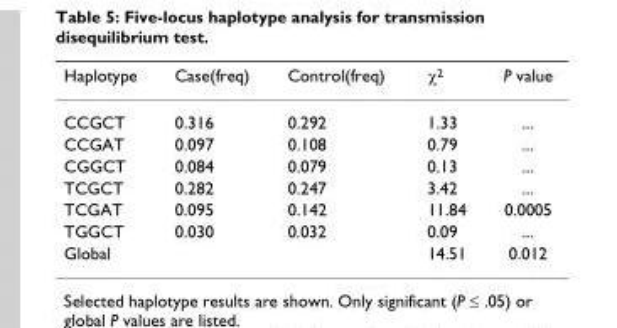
<table><thead><tr><td>Haplotype</td><td>Case(freq)</td><td>Control(freq)</td><td>χ<sup>2</sup></td><td>P value</td></tr></thead><tbody><tr><td>CCGCT</td><td>0.316</td><td>0.292</td><td>1.33</td><td>...</td></tr><tr><td>CCGAT</td><td>0.097</td><td>0.108</td><td>0.79</td><td>...</td></tr><tr><td>CGGCT</td><td>0.084</td><td>0.079</td><td>0.13</td><td>...</td></tr><tr><td>TCGCT</td><td>0.282</td><td>0.247</td><td>3.42</td><td>...</td></tr><tr><td>TCGAT</td><td>0.095</td><td>0.142</td><td>11.84</td><td>0.0005</td></tr><tr><td>TGGCT</td><td>0.030</td><td>0.032</td><td>0.09</td><td>...</td></tr><tr><td>Global</td><td></td><td></td><td>14.51</td><td>0.012</td></tr></tbody></table>